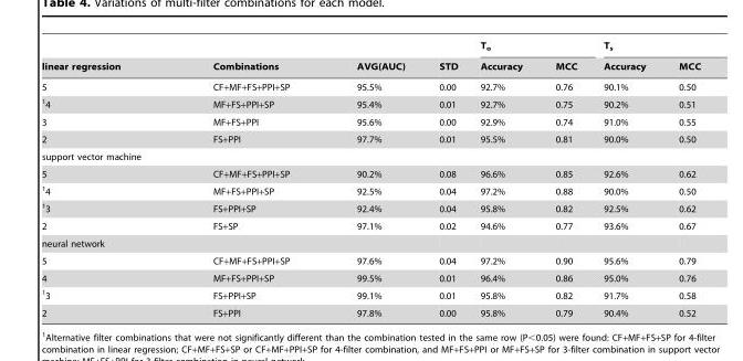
<table><thead><tr><td rowspan="2">linear regression</td><td rowspan="2">Combinations</td><td rowspan="2">AVG(AUC)</td><td rowspan="2">STD</td><td colspan="2">T<sub>o</sub></td><td colspan="2">T<sub>s</sub></td></tr><tr><td>Accuracy</td><td>MCC</td><td>Accuracy</td><td>MCC</td></tr></thead><tbody><tr><td>5</td><td>CF+MF+FS+PPI+SP</td><td>95.5%</td><td>0.00</td><td>92.7%</td><td>0.76</td><td>90.1%</td><td>0.50</td></tr><tr><td>14</td><td>MF+FS+PPI+SP</td><td>95.4%</td><td>0.01</td><td>92.7%</td><td>0.75</td><td>90.2%</td><td>0.51</td></tr><tr><td>3</td><td>MF+FS+PPI</td><td>95.6%</td><td>0.00</td><td>92.9%</td><td>0.74</td><td>91.0%</td><td>0.55</td></tr><tr><td>2</td><td>FS+PPI</td><td>97.7%</td><td>0.01</td><td>95.5%</td><td>0.81</td><td>90.0%</td><td>0.50</td></tr><tr><td colspan="8">support vector machine</td></tr><tr><td>5</td><td>CF+MF+FS+PPI+SP</td><td>90.2%</td><td>0.08</td><td>96.6%</td><td>0.85</td><td>92.6%</td><td>0.62</td></tr><tr><td>14</td><td>MF+FS+PPI+SP</td><td>92.5%</td><td>0.04</td><td>97.2%</td><td>0.88</td><td>90.0%</td><td>0.50</td></tr><tr><td>13</td><td>FS+PPI+SP</td><td>92.4%</td><td>0.04</td><td>95.8%</td><td>0.82</td><td>92.5%</td><td>0.62</td></tr><tr><td>2</td><td>FS+SP</td><td>97.1%</td><td>0.02</td><td>94.6%</td><td>0.77</td><td>93.6%</td><td>0.67</td></tr><tr><td colspan="8">neural network</td></tr><tr><td>5</td><td>CF+MF+FS+PPI+SP</td><td>97.6%</td><td>0.04</td><td>97.2%</td><td>0.90</td><td>95.6%</td><td>0.79</td></tr><tr><td>4</td><td>MF+FS+PPI+SP</td><td>99.5%</td><td>0.01</td><td>96.4%</td><td>0.86</td><td>95.0%</td><td>0.76</td></tr><tr><td>13</td><td>FS+PPI+SP</td><td>99.1%</td><td>0.01</td><td>95.8%</td><td>0.82</td><td>91.7%</td><td>0.58</td></tr><tr><td>2</td><td>FS+PPI</td><td>97.8%</td><td>0.00</td><td>95.8%</td><td>0.79</td><td>90.4%</td><td>0.52</td></tr></tbody></table>